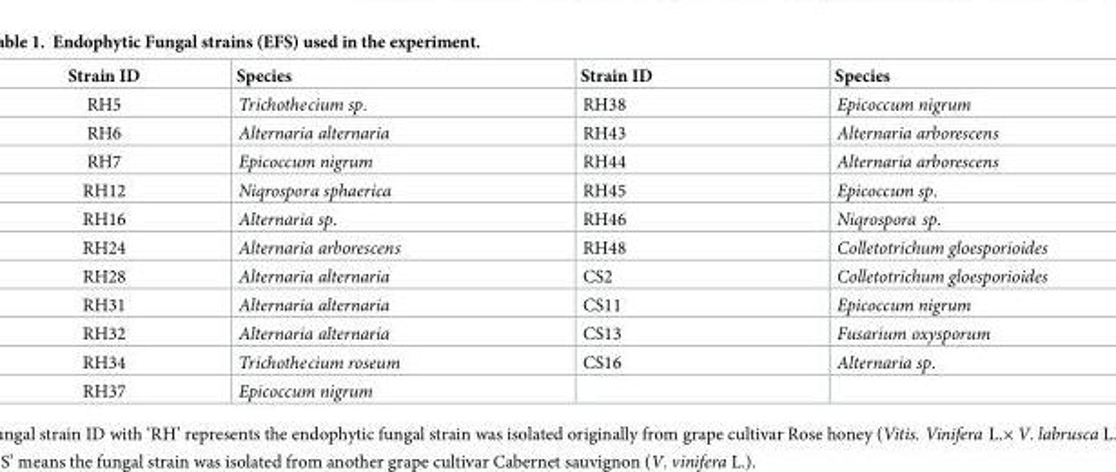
<table><thead><tr><td>Strain ID</td><td>Species</td><td>Strain ID</td><td>Species</td></tr></thead><tbody><tr><td>RH5</td><td>Trichothecium sp.</td><td>RH38</td><td>Epicoccum nigrum</td></tr><tr><td>RH6</td><td>Alternaria alternaria</td><td>RH43</td><td>Alternaria arborescens</td></tr><tr><td>RH7</td><td>Epicoccum nigrum</td><td>RH44</td><td>Alternaria arborescens</td></tr><tr><td>RH12</td><td>Niqrospora sphaerica</td><td>RH45</td><td>Epicoccum sp.</td></tr><tr><td>RH16</td><td>Alternaria sp.</td><td>RH46</td><td>Niqrospora sp.</td></tr><tr><td>RH24</td><td>Alternaria arborescens</td><td>RH48</td><td>Colletotrichum gloesporioides</td></tr><tr><td>RH28</td><td>Alternaria alternaria</td><td>CS2</td><td>Colletotrichum gloesporioides</td></tr><tr><td>RH31</td><td>Alternaria alternaria</td><td>CS11</td><td>Epicoccum nigrum</td></tr><tr><td>RH32</td><td>Alternaria alternaria</td><td>CS13</td><td>Fusarium oxysporum</td></tr><tr><td>RH34</td><td>Trichothecium roseum</td><td>CS16</td><td>Alternaria sp.</td></tr><tr><td>RH37</td><td>Epicoccum nigrum</td><td></td><td></td></tr></tbody></table>